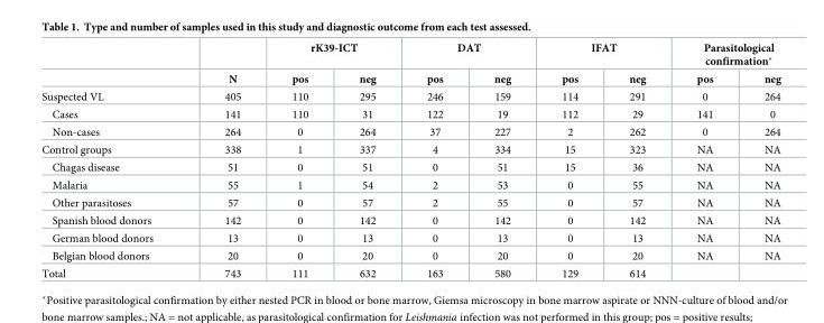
<table><thead><tr><td rowspan="2"></td><td rowspan="2">N</td><td colspan="2">rK39-ICT</td><td colspan="2">DAT</td><td colspan="2">IFAT</td><td colspan="2">Parasitological confirmation*</td></tr><tr><td>pos</td><td>neg</td><td>pos</td><td>neg</td><td>pos</td><td>neg</td><td>pos</td><td>neg</td></tr></thead><tbody><tr><td>Suspected VL</td><td>405</td><td>110</td><td>295</td><td>246</td><td>159</td><td>114</td><td>291</td><td>0</td><td>264</td></tr><tr><td>Cases</td><td>141</td><td>110</td><td>31</td><td>122</td><td>19</td><td>112</td><td>29</td><td>141</td><td>0</td></tr><tr><td>Non-cases</td><td>264</td><td>0</td><td>264</td><td>37</td><td>227</td><td>2</td><td>262</td><td>0</td><td>264</td></tr><tr><td>Control groups</td><td>338</td><td>1</td><td>337</td><td>4</td><td>334</td><td>15</td><td>323</td><td>NA</td><td>NA</td></tr><tr><td>Chagas disease</td><td>51</td><td>0</td><td>51</td><td>0</td><td>51</td><td>15</td><td>36</td><td>NA</td><td>NA</td></tr><tr><td>Malaria</td><td>55</td><td>1</td><td>54</td><td>2</td><td>53</td><td>0</td><td>55</td><td>NA</td><td>NA</td></tr><tr><td>Other parasitoses</td><td>57</td><td>0</td><td>57</td><td>2</td><td>55</td><td>0</td><td>57</td><td>NA</td><td>NA</td></tr><tr><td>Spanish blood donors</td><td>142</td><td>0</td><td>142</td><td>0</td><td>142</td><td>0</td><td>142</td><td>NA</td><td>NA</td></tr><tr><td>German blood donors</td><td>13</td><td>0</td><td>13</td><td>0</td><td>13</td><td>0</td><td>13</td><td>NA</td><td>NA</td></tr><tr><td>Belgian blood donors</td><td>20</td><td>0</td><td>20</td><td>0</td><td>20</td><td>0</td><td>20</td><td>NA</td><td>NA</td></tr><tr><td>Total</td><td>743</td><td>111</td><td>632</td><td>163</td><td>580</td><td>129</td><td>614</td><td></td><td></td></tr></tbody></table>